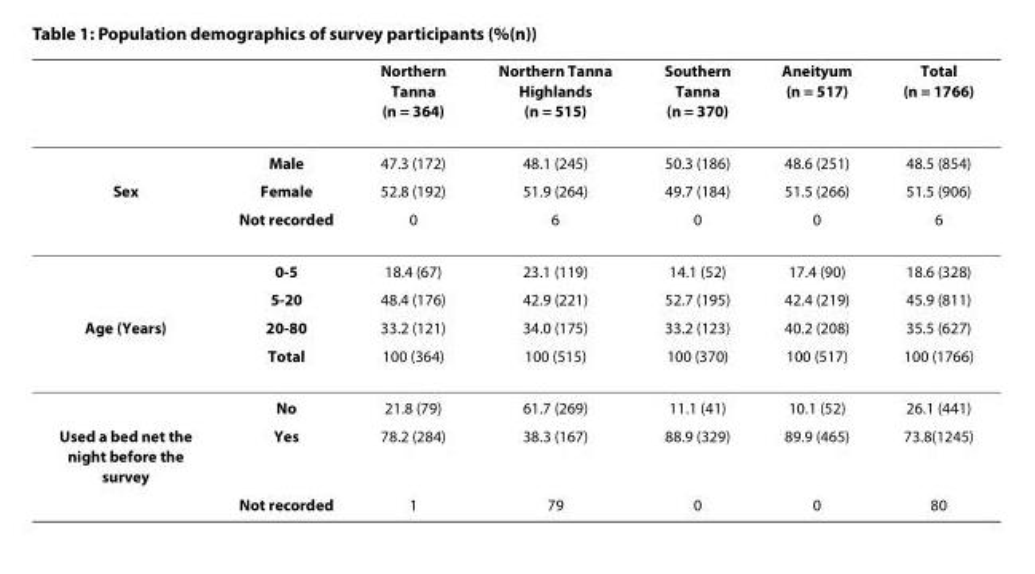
<table><thead><tr><td></td><td></td><td>Northern Tanna (n = 364)</td><td>Northern Tanna Highlands (n = 515)</td><td>Southern Tanna (n = 370)</td><td>Aneityum (n = 517)</td><td>Total (n = 1766)</td></tr></thead><tbody><tr><td></td><td>Male</td><td>47.3 (172)</td><td>48.1 (245)</td><td>50.3 (186)</td><td>48.6 (251)</td><td>48.5 (854)</td></tr><tr><td rowspan="4">Sex</td><td>Female</td><td>52.8 (192)</td><td>51.9 (264)</td><td>49.7 (184)</td><td>51.5 (266)</td><td>51.5 (906)</td></tr><tr><td>Not recorded</td><td>0</td><td>6</td><td>0</td><td>0</td><td>6</td></tr><tr><td>0-5</td><td>18.4 (67)</td><td>23.1 (119)</td><td>14.1 (52)</td><td>17.4 (90)</td><td>18.6 (328)</td></tr><tr><td>5-20</td><td>48.4 (176)</td><td>42.9 (221)</td><td>52.7 (195)</td><td>42.4 (219)</td><td>45.9 (811)</td></tr><tr><td rowspan="3">Age (Years)</td><td>20-80</td><td>33.2 (121)</td><td>34.0 (175)</td><td>33.2 (123)</td><td>40.2 (208)</td><td>35.5 (627)</td></tr><tr><td>Total</td><td>100 (364)</td><td>100 (515)</td><td>100 (370)</td><td>100 (517)</td><td>100 (1766)</td></tr><tr><td>No</td><td>21.8 (79)</td><td>61.7 (269)</td><td>11.1 (41)</td><td>10.1 (52)</td><td>26.1 (441)</td></tr><tr><td rowspan="2">Used a bed net the night before the survey</td><td>Yes</td><td>78.2 (284)</td><td>38.3 (167)</td><td>88.9 (329)</td><td>89.9 (465)</td><td>73.8(1245)</td></tr><tr><td>Not recorded</td><td>1</td><td>79</td><td>0</td><td>0</td><td>80</td></tr></tbody></table>